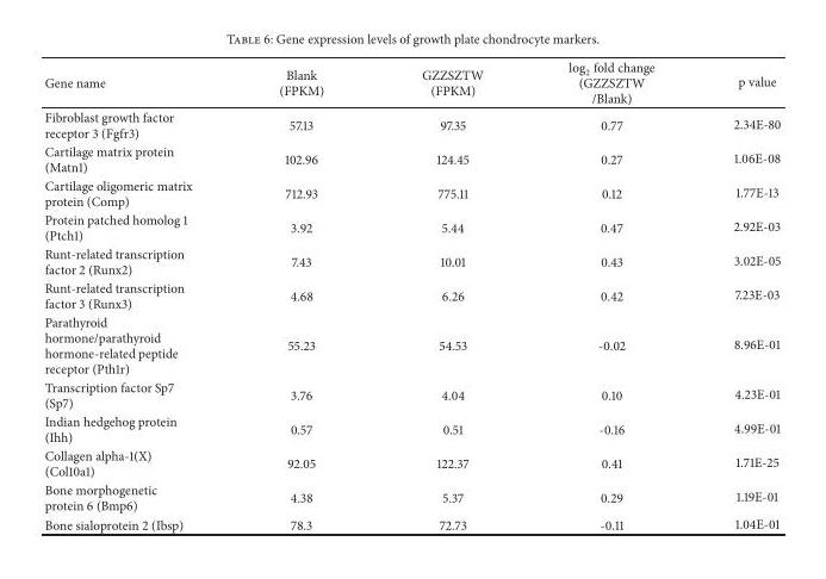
<table><thead><tr><td>Gene name</td><td>Blank (FPKM)</td><td>GZZSZTW (FPKM)</td><td>log<sub>2</sub> fold change (GZZSZTW /Blank)</td><td>p value</td></tr></thead><tbody><tr><td>Fibroblast growth factor receptor 3 (Fgfr3)</td><td>57.13</td><td>97.35</td><td>0.77</td><td>2.34E-80</td></tr><tr><td>Cartilage matrix protein (Matn1)</td><td>102.96</td><td>124.45</td><td>0.27</td><td>1.06E-08</td></tr><tr><td>Cartilage oligomeric matrix protein (Comp)</td><td>712.93</td><td>775.11</td><td>0.12</td><td>1.77E-13</td></tr><tr><td>Protein patched homolog 1 (Ptch1)</td><td>3.92</td><td>5.44</td><td>0.47</td><td>2.92E-03</td></tr><tr><td>Runt-related transcription factor 2 (Runx2)</td><td>7.43</td><td>10.01</td><td>0.43</td><td>3.02E-05</td></tr><tr><td>Runt-related transcription factor 3 (Runx3)</td><td>4.68</td><td>6.26</td><td>0.42</td><td>7.23E-03</td></tr><tr><td>Parathyroid hormone/parathyroid hormone-related peptide receptor (Pth1r)</td><td>55.23</td><td>54.53</td><td>-0.02</td><td>8.96E-01</td></tr><tr><td>Transcription factor Sp7 (Sp7)</td><td>3.76</td><td>4.04</td><td>0.10</td><td>4.23E-01</td></tr><tr><td>Indian hedgehog protein (Ihh)</td><td>0.57</td><td>0.51</td><td>-0.16</td><td>4.99E-01</td></tr><tr><td>Collagen alpha-1(X) (Col10a1)</td><td>92.05</td><td>122.37</td><td>0.41</td><td>1.71E-25</td></tr><tr><td>Bone morphogenetic protein 6 (Bmp6)</td><td>4.38</td><td>5.37</td><td>0.29</td><td>1.19E-01</td></tr><tr><td>Bone sialoprotein 2 (Ibsp)</td><td>78.3</td><td>72.73</td><td>-0.11</td><td>1.04E-01</td></tr></tbody></table>